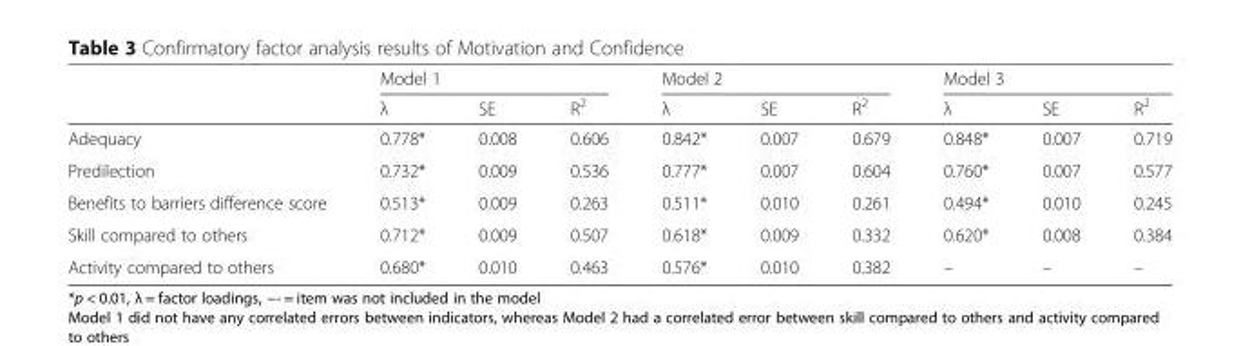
<table><thead><tr><td rowspan="2"></td><td colspan="3">Model 1</td><td colspan="3">Model 2</td><td colspan="3">Model 3</td></tr><tr><td>λ</td><td>SE</td><td>R<sup>2</sup></td><td>λ</td><td>SE</td><td>R<sup>2</sup></td><td>λ</td><td>SE</td><td>R<sup>2</sup></td></tr></thead><tbody><tr><td>Adequacy</td><td>0.778*</td><td>0.008</td><td>0.606</td><td>0.842*</td><td>0.007</td><td>0.679</td><td>0.848*</td><td>0.007</td><td>0.719</td></tr><tr><td>Predilection</td><td>0.732*</td><td>0.009</td><td>0.536</td><td>0.777*</td><td>0.007</td><td>0.604</td><td>0.760*</td><td>0.007</td><td>0.577</td></tr><tr><td>Benefits to barriers difference score</td><td>0.513*</td><td>0.009</td><td>0.263</td><td>0.511*</td><td>0.010</td><td>0.261</td><td>0.494*</td><td>0.010</td><td>0.245</td></tr><tr><td>Skill compared to others</td><td>0.712*</td><td>0.009</td><td>0.507</td><td>0.618*</td><td>0.009</td><td>0.332</td><td>0.620*</td><td>0.008</td><td>0.384</td></tr><tr><td>Activity compared to others</td><td>0.680*</td><td>0.010</td><td>0.463</td><td>0.576*</td><td>0.010</td><td>0.382</td><td>–</td><td>–</td><td>–</td></tr></tbody></table>